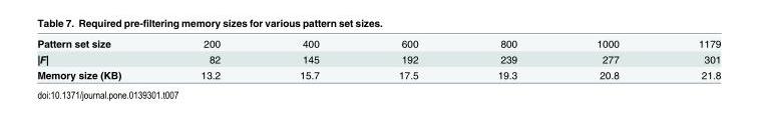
<table><tbody><tr><td>Pattern set size</td><td>200</td><td>400</td><td>600</td><td>800</td><td>1000</td><td>1179</td></tr><tr><td>|F|</td><td>82</td><td>145</td><td>192</td><td>239</td><td>277</td><td>301</td></tr><tr><td>Memory size (KB)</td><td>13.2</td><td>15.7</td><td>17.5</td><td>19.3</td><td>20.8</td><td>21.8</td></tr></tbody></table>